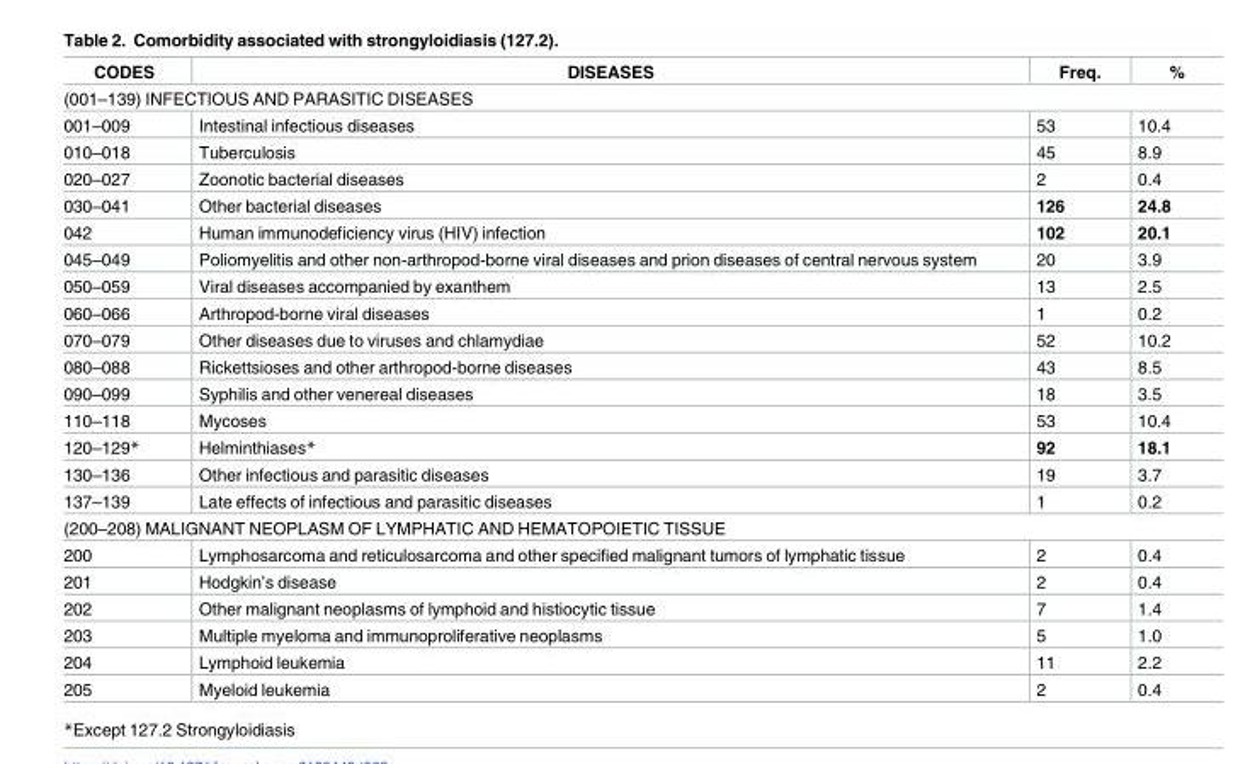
<table><thead><tr><td>CODES</td><td>DISEASES</td><td>Freq.</td><td>%</td></tr></thead><tbody><tr><td colspan="4">(001–139) INFECTIOUS AND PARASITIC DISEASES</td></tr><tr><td>001–009</td><td>Intestinal infectious diseases</td><td>53</td><td>10.4</td></tr><tr><td>010–018</td><td>Tuberculosis</td><td>45</td><td>8.9</td></tr><tr><td>020–027</td><td>Zoonotic bacterial diseases</td><td>2</td><td>0.4</td></tr><tr><td>030–041</td><td>Other bacterial diseases</td><td>126</td><td>24.8</td></tr><tr><td>042</td><td>Human immunodeficiency virus (HIV) infection</td><td>102</td><td>20.1</td></tr><tr><td>045–049</td><td>Poliomyelitis and other non-arthropod-borne viral diseases and prion diseases of central nervous system</td><td>20</td><td>3.9</td></tr><tr><td>050–059</td><td>Viral diseases accompanied by exanthem</td><td>13</td><td>2.5</td></tr><tr><td>060–066</td><td>Arthropod-borne viral diseases</td><td>1</td><td>0.2</td></tr><tr><td>070–079</td><td>Other diseases due to viruses and chlamydiae</td><td>52</td><td>10.2</td></tr><tr><td>080–088</td><td>Rickettsioses and other arthropod-borne diseases</td><td>43</td><td>8.5</td></tr><tr><td>090–099</td><td>Syphilis and other venereal diseases</td><td>18</td><td>3.5</td></tr><tr><td>110–118</td><td>Mycoses</td><td>53</td><td>10.4</td></tr><tr><td>120–129*</td><td>Helminthiases*</td><td>92</td><td>18.1</td></tr><tr><td>130–136</td><td>Other infectious and parasitic diseases</td><td>19</td><td>3.7</td></tr><tr><td>137–139</td><td>Late effects of infectious and parasitic diseases</td><td>1</td><td>0.2</td></tr><tr><td colspan="4">(200–208) MALIGNANT NEOPLASM OF LYMPHATIC AND HEMATOPOIETIC TISSUE</td></tr><tr><td>200</td><td>Lymphosarcoma and reticulosarcoma and other specified malignant tumors of lymphatic tissue</td><td>2</td><td>0.4</td></tr><tr><td>201</td><td>Hodgkin’s disease</td><td>2</td><td>0.4</td></tr><tr><td>202</td><td>Other malignant neoplasms of lymphoid and histiocytic tissue</td><td>7</td><td>1.4</td></tr><tr><td>203</td><td>Multiple myeloma and immunoproliferative neoplasms</td><td>5</td><td>1.0</td></tr><tr><td>204</td><td>Lymphoid leukemia</td><td>11</td><td>2.2</td></tr><tr><td>205</td><td>Myeloid leukemia</td><td>2</td><td>0.4</td></tr></tbody></table>